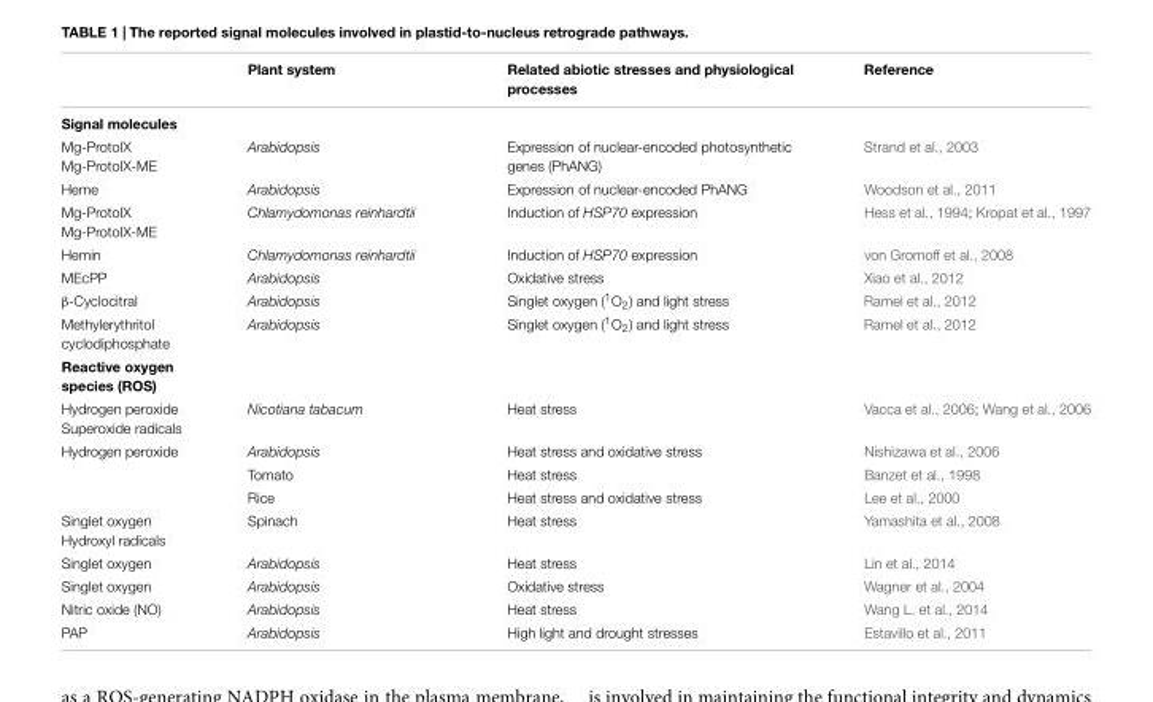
<table><thead><tr><td></td><td>Plant system</td><td>Related abiotic stresses and physiological processes</td><td>Reference</td></tr></thead><tbody><tr><td colspan="4">Signal molecules</td></tr><tr><td>Mg-ProtoIX Mg-ProtoIX-ME</td><td>Arabidopsis</td><td>Expression of nuclear-encoded photosynthetic genes (PhANG)</td><td>Strand et al., 2003</td></tr><tr><td>Heme</td><td>Arabidopsis</td><td>Expression of nuclear-encoded PhANG</td><td>Woodson et al., 2011</td></tr><tr><td>Mg-ProtoIX Mg-ProtoIX-ME</td><td>Chlamydomonas reinhardtii</td><td>Induction of HSP70 expression</td><td>Hess et al., 1994; Kropat et al., 1997</td></tr><tr><td>Hemin</td><td>Chlamydomonas reinhardtii</td><td>Induction of HSP70 expression</td><td>von Gromoff et al., 2008</td></tr><tr><td>MEcPP</td><td>Arabidopsis</td><td>Oxidative stress</td><td>Xiao et al., 2012</td></tr><tr><td>β-Cyclocitral</td><td>Arabidopsis</td><td>Singlet oxygen (<sup>1</sup>O<sub>2</sub>) and light stress</td><td>Ramel et al., 2012</td></tr><tr><td>Methylerythritol cyclodiphosphate</td><td>Arabidopsis</td><td>Singlet oxygen (<sup>1</sup>O<sub>2</sub>) and light stress</td><td>Ramel et al., 2012</td></tr><tr><td colspan="4">Reactive oxygen species (ROS)</td></tr><tr><td>Hydrogen peroxide Superoxide radicals</td><td>Nicotiana tabacum</td><td>Heat stress</td><td>Vacca et al., 2006; Wang et al., 2006</td></tr><tr><td rowspan="3">Hydrogen peroxide</td><td>Arabidopsis</td><td>Heat stress and oxidative stress</td><td>Nishizawa et al., 2006</td></tr><tr><td>Tomato</td><td>Heat stress</td><td>Banzet et al., 1998</td></tr><tr><td>Rice</td><td>Heat stress and oxidative stress</td><td>Lee et al., 2000</td></tr><tr><td>Singlet oxygen Hydroxyl radicals</td><td>Spinach</td><td>Heat stress</td><td>Yamashita et al., 2008</td></tr><tr><td>Singlet oxygen</td><td>Arabidopsis</td><td>Heat stress</td><td>Lin et al., 2014</td></tr><tr><td>Singlet oxygen</td><td>Arabidopsis</td><td>Oxidative stress</td><td>Wagner et al., 2004</td></tr><tr><td>Nitric oxide (NO)</td><td>Arabidopsis</td><td>Heat stress</td><td>Wang L. et al., 2014</td></tr><tr><td>PAP</td><td>Arabidopsis</td><td>High light and drought stresses</td><td>Estavillo et al., 2011</td></tr></tbody></table>